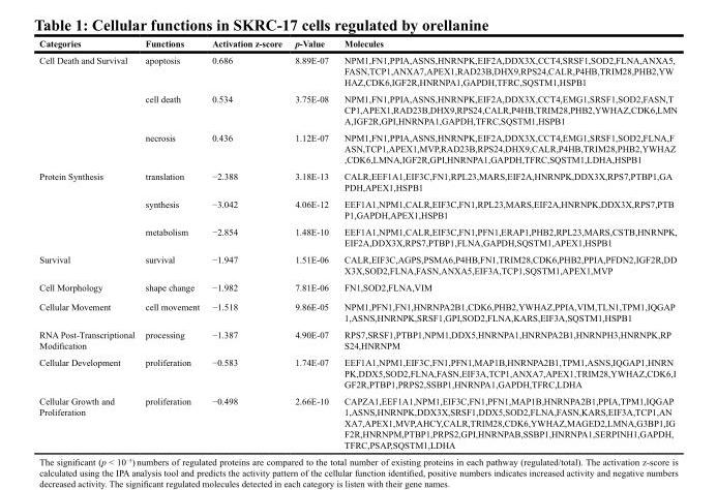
<table><thead><tr><td>Categories</td><td>Functions</td><td>Activation z-score</td><td>p-Value</td><td>Molecules</td></tr></thead><tbody><tr><td rowspan="3">Cell Death and Survival</td><td>apoptosis</td><td>0.686</td><td>8.89E-07</td><td>NPM1,FN1,PPIA,ASNS,HNRNPK,EIF2A,DDX3X,CCT4,SRSF1,SOD2,FLNA,ANXA5, FASN,TCP1,ANXA7,APEX1,RAD23B,DHX9,RPS24,CALR,P4HB,TRIM28,PHB2,YW HAZ,CDK6,IGF2R,HNRNPA1,GAPDH,TFRC,SQSTM1,HSPB1</td></tr><tr><td>cell death</td><td>0.534</td><td>3.75E-08</td><td>NPM1,FN1,PPIA,ASNS,HNRNPK,EIF2A,DDX3X,CCT4,EMG1,SRSF1,SOD2,FASN,T CP1,APEX1,RAD23B,DHX9,RPS24,CALR,P4HB,TRIM28,PHB2,YWHAZ,CDK6,LMN A,IGF2R,GPI,HNRNPA1,GAPDH,TFRC,SQSTM1,HSPB1</td></tr><tr><td>necrosis</td><td>0.436</td><td>1.12E-07</td><td>NPM1,FN1,PPIA,ASNS,HNRNPK,EIF2A,DDX3X,CCT4,EMG1,SRSF1,SOD2,FLNA,F ASN,TCP1,APEX1,MVP,RAD23B,RPS24,DHX9,CALR,P4HB,TRIM28,PHB2,YWHAZ ,CDK6,LMNA,IGF2R,GPI,HNRNPA1,GAPDH,TFRC,SQSTM1,LDHA,HSPB1</td></tr><tr><td rowspan="3">Protein Synthesis</td><td>translation</td><td>−2.388</td><td>3.18E-13</td><td>CALR,EEF1A1,EIF3C,FN1,RPL23,MARS,EIF2A,HNRNPK,DDX3X,RPS7,PTBP1,GA PDH,APEX1,HSPB1</td></tr><tr><td>synthesis</td><td>−3.042</td><td>4.06E-12</td><td>EEF1A1,NPM1,CALR,EIF3C,FN1,RPL23,MARS,EIF2A,HNRNPK,DDX3X,RPS7,PTB P1,GAPDH,APEX1,HSPB1</td></tr><tr><td>metabolism</td><td>−2.854</td><td>1.48E-10</td><td>EEF1A1,NPM1,CALR,EIF3C,FN1,PFN1,ERAP1,PHB2,RPL23,MARS,CSTB,HNRNPK, EIF2A,DDX3X,RPS7,PTBP1,FLNA,GAPDH,SQSTM1,APEX1,HSPB1</td></tr><tr><td>Survival</td><td>survival</td><td>−1.947</td><td>1.51E-06</td><td>CALR,EIF3C,AGPS,PSMA6,P4HB,FN1,TRIM28,CDK6,PHB2,PPIA,PFDN2,IGF2R,DD X3X,SOD2,FLNA,FASN,ANXA5,EIF3A,TCP1,SQSTM1,APEX1,MVP</td></tr><tr><td>Cell Morphology</td><td>shape change</td><td>−1.982</td><td>7.81E-06</td><td>FN1,SOD2,FLNA,VIM</td></tr><tr><td>Cellular Movement</td><td>cell movement</td><td>−1.518</td><td>9.86E-05</td><td>NPM1,PFN1,FN1,HNRNPA2B1,CDK6,PHB2,YWHAZ,PPIA,VIM,TLN1,TPM1,IQGAP 1,ASNS,HNRNPK,SRSF1,GPI,SOD2,FLNA,KARS,EIF3A,SQSTM1,HSPB1</td></tr><tr><td>RNA Post-Transcriptional Modification</td><td>processing</td><td>−1.387</td><td>4.90E-07</td><td>RPS7,SRSF1,PTBP1,NPM1,DDX5,HNRNPA1,HNRNPA2B1,HNRNPH3,HNRNPK,RP S24,HNRNPM</td></tr><tr><td>Cellular Development</td><td>proliferation</td><td>−0.583</td><td>1.74E-07</td><td>EEF1A1,NPM1,EIF3C,FN1,PFN1,MAP1B,HNRNPA2B1,TPM1,ASNS,IQGAP1,HNRN PK,DDX5,SOD2,FLNA,FASN,EIF3A,TCP1,ANXA7,APEX1,TRIM28,YWHAZ,CDK6,I GF2R,PTBP1,PRPS2,SSBP1,HNRNPA1,GAPDH,TFRC,LDHA</td></tr><tr><td>Cellular Growth and Proliferation</td><td>proliferation</td><td>−0.498</td><td>2.66E-10</td><td>CAPZA1,EEF1A1,NPM1,EIF3C,FN1,PFN1,MAP1B,HNRNPA2B1,PPIA,TPM1,IQGAP 1,ASNS,HNRNPK,DDX3X,SRSF1,DDX5,SOD2,FLNA,FASN,KARS,EIF3A,TCP1,AN XA7,APEX1,MVP,AHCY,CALR,TRIM28,CDK6,YWHAZ,MAGED2,LMNA,G3BP1,IG F2R,HNRNPM,PTBP1,PRPS2,GPI,HNRNPAB,SSBP1,HNRNPA1,SERPINH1,GAPDH, TFRC,PSAP,SQSTM1,LDHA</td></tr></tbody></table>